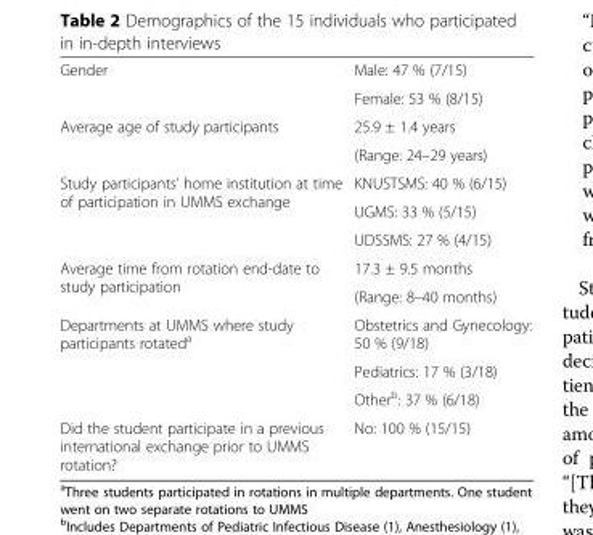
<table><tbody><tr><td rowspan="2">Gender</td><td>Male: 47 % (7/15)</td></tr><tr><td>Female: 53 % (8/15)</td></tr><tr><td rowspan="2">Average age of study participants</td><td>25.9 ± 1.4 years</td></tr><tr><td>(Range: 24–29 years)</td></tr><tr><td rowspan="3">Study participants’ home institution at time of participation in UMMS exchange</td><td>KNUSTSMS: 40 % (6/15)</td></tr><tr><td>UGMS: 33 % (5/15)</td></tr><tr><td>UDSSMS: 27 % (4/15)</td></tr><tr><td rowspan="2">Average time from rotation end-date to study participation</td><td>17.3 ± 9.5 months</td></tr><tr><td>(Range: 8–40 months)</td></tr><tr><td rowspan="3">Departments at UMMS where study participants rotated<sup>a</sup></td><td>Obstetrics and Gynecology: 50 % (9/18)</td></tr><tr><td>Pediatrics: 17 % (3/18)</td></tr><tr><td>Other<sup>b</sup>: 37 % (6/18)</td></tr><tr><td>Did the student participate in a previous international exchange prior to UMMS rotation?</td><td>No: 100 % (15/15)</td></tr></tbody></table>